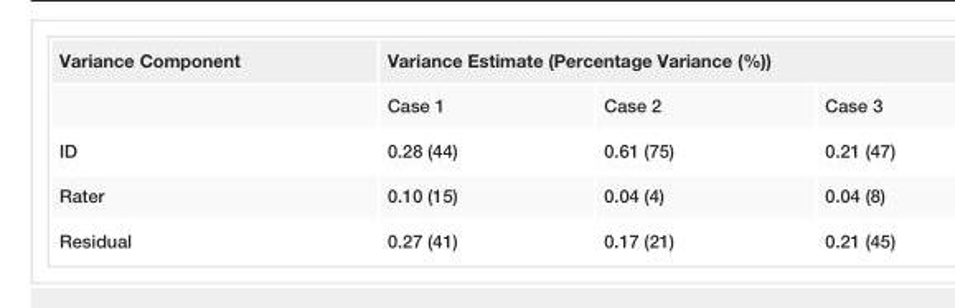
<table><tbody><tr><td rowspan="2">Variance Component</td><td colspan="3">Variance Estimate (Percentage Variance (%))</td></tr><tr><td>Case 1</td><td>Case 2</td><td>Case 3</td></tr><tr><td>ID</td><td>0.28 (44)</td><td>0.61 (75)</td><td>0.21 (47)</td></tr><tr><td>Rater</td><td>0.10 (15)</td><td>0.04 (4)</td><td>0.04 (8)</td></tr><tr><td>Residual</td><td>0.27 (41)</td><td>0.17 (21)</td><td>0.21 (45)</td></tr></tbody></table>